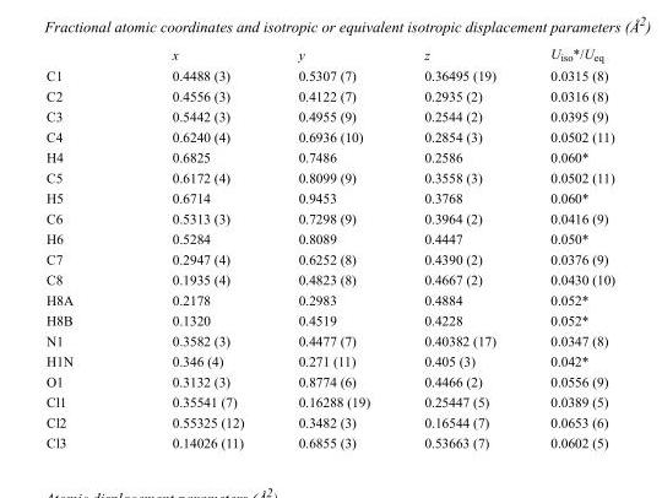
<table><thead><tr><td></td><td>x</td><td>y</td><td>z</td><td>U<sub>iso</sub>*/U<sub>eq</sub></td></tr></thead><tbody><tr><td>C1</td><td>0.4488 (3)</td><td>0.5307 (7)</td><td>0.36495 (19)</td><td>0.0315 (8)</td></tr><tr><td>C2</td><td>0.4556 (3)</td><td>0.4122 (7)</td><td>0.2935 (2)</td><td>0.0316 (8)</td></tr><tr><td>C3</td><td>0.5442 (3)</td><td>0.4955 (9)</td><td>0.2544 (2)</td><td>0.0395 (9)</td></tr><tr><td>C4</td><td>0.6240 (4)</td><td>0.6936 (10)</td><td>0.2854 (3)</td><td>0.0502 (11)</td></tr><tr><td>H4</td><td>0.6825</td><td>0.7486</td><td>0.2586</td><td>0.060*</td></tr><tr><td>C5</td><td>0.6172 (4)</td><td>0.8099 (9)</td><td>0.3558 (3)</td><td>0.0502 (11)</td></tr><tr><td>H5</td><td>0.6714</td><td>0.9453</td><td>0.3768</td><td>0.060*</td></tr><tr><td>C6</td><td>0.5313 (3)</td><td>0.7298 (9)</td><td>0.3964 (2)</td><td>0.0416 (9)</td></tr><tr><td>H6</td><td>0.5284</td><td>0.8089</td><td>0.4447</td><td>0.050*</td></tr><tr><td>C7</td><td>0.2947 (4)</td><td>0.6252 (8)</td><td>0.4390 (2)</td><td>0.0376 (9)</td></tr><tr><td>C8</td><td>0.1935 (4)</td><td>0.4823 (8)</td><td>0.4667 (2)</td><td>0.0430 (10)</td></tr><tr><td>H8A</td><td>0.2178</td><td>0.2983</td><td>0.4884</td><td>0.052*</td></tr><tr><td>H8B</td><td>0.1320</td><td>0.4519</td><td>0.4228</td><td>0.052*</td></tr><tr><td>N1</td><td>0.3582 (3)</td><td>0.4477 (7)</td><td>0.40382 (17)</td><td>0.0347 (8)</td></tr><tr><td>H1N</td><td>0.346 (4)</td><td>0.271 (11)</td><td>0.405 (3)</td><td>0.042*</td></tr><tr><td>O1</td><td>0.3132 (3)</td><td>0.8774 (6)</td><td>0.4466 (2)</td><td>0.0556 (9)</td></tr><tr><td>Cl1</td><td>0.35541 (7)</td><td>0.16288 (19)</td><td>0.25447 (5)</td><td>0.0389 (5)</td></tr><tr><td>Cl2</td><td>0.55325 (12)</td><td>0.3482 (3)</td><td>0.16544 (7)</td><td>0.0653 (6)</td></tr><tr><td>Cl3</td><td>0.14026 (11)</td><td>0.6855 (3)</td><td>0.53663 (7)</td><td>0.0602 (5)</td></tr></tbody></table>